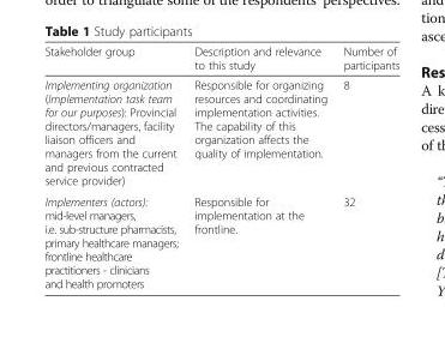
<table><thead><tr><td>Stakeholder group</td><td>Description and relevance to this study</td><td>Number of participants</td></tr></thead><tbody><tr><td>Implementing organization (Implementation task team for our purposes): Provincial directors/managers, facility liaison officers and managers from the current and previous contracted service provider)</td><td>Responsible for organizing resources and coordinating implementation activities. The capability of this organization affects the quality of implementation.</td><td>8</td></tr><tr><td>Implementers (actors): mid-level managers, i.e. sub-structure pharmacists, primary healthcare managers; frontline healthcare practitioners - clinicians and health promoters</td><td>Responsible for implementation at the frontline.</td><td>32</td></tr></tbody></table>